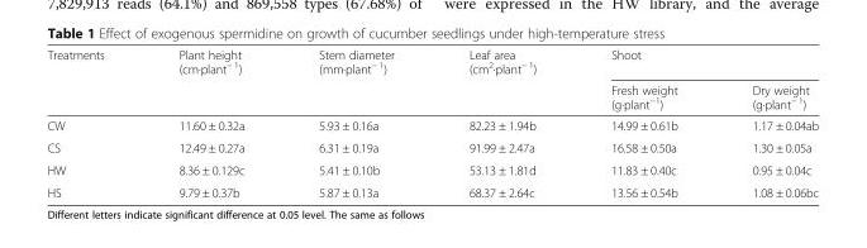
<table><thead><tr><td rowspan="2">Treatments</td><td rowspan="2">Plant height (cm·plant<sup>− 1</sup>)</td><td rowspan="2">Stem diameter (mm·plant<sup>− 1</sup>)</td><td rowspan="2">Leaf area (cm<sup>2</sup>·plant<sup>− 1</sup>)</td><td colspan="2">Shoot</td></tr><tr><td>Fresh weight (g·plant<sup>−1</sup>)</td><td>Dry weight (g·plant<sup>− 1</sup>)</td></tr></thead><tbody><tr><td>CW</td><td>11.60 ± 0.32a</td><td>5.93 ± 0.16a</td><td>82.23 ± 1.94b</td><td>14.99 ± 0.61b</td><td>1.17 ± 0.04ab</td></tr><tr><td>CS</td><td>12.49 ± 0.27a</td><td>6.31 ± 0.19a</td><td>91.99 ± 2.47a</td><td>16.58 ± 0.50a</td><td>1.30 ± 0.05a</td></tr><tr><td>HW</td><td>8.36 ± 0.129c</td><td>5.41 ± 0.10b</td><td>53.13 ± 1.81d</td><td>11.83 ± 0.40c</td><td>0.95 ± 0.04c</td></tr><tr><td>HS</td><td>9.79 ± 0.37b</td><td>5.87 ± 0.13a</td><td>68.37 ± 2.64c</td><td>13.56 ± 0.54b</td><td>1.08 ± 0.06bc</td></tr></tbody></table>